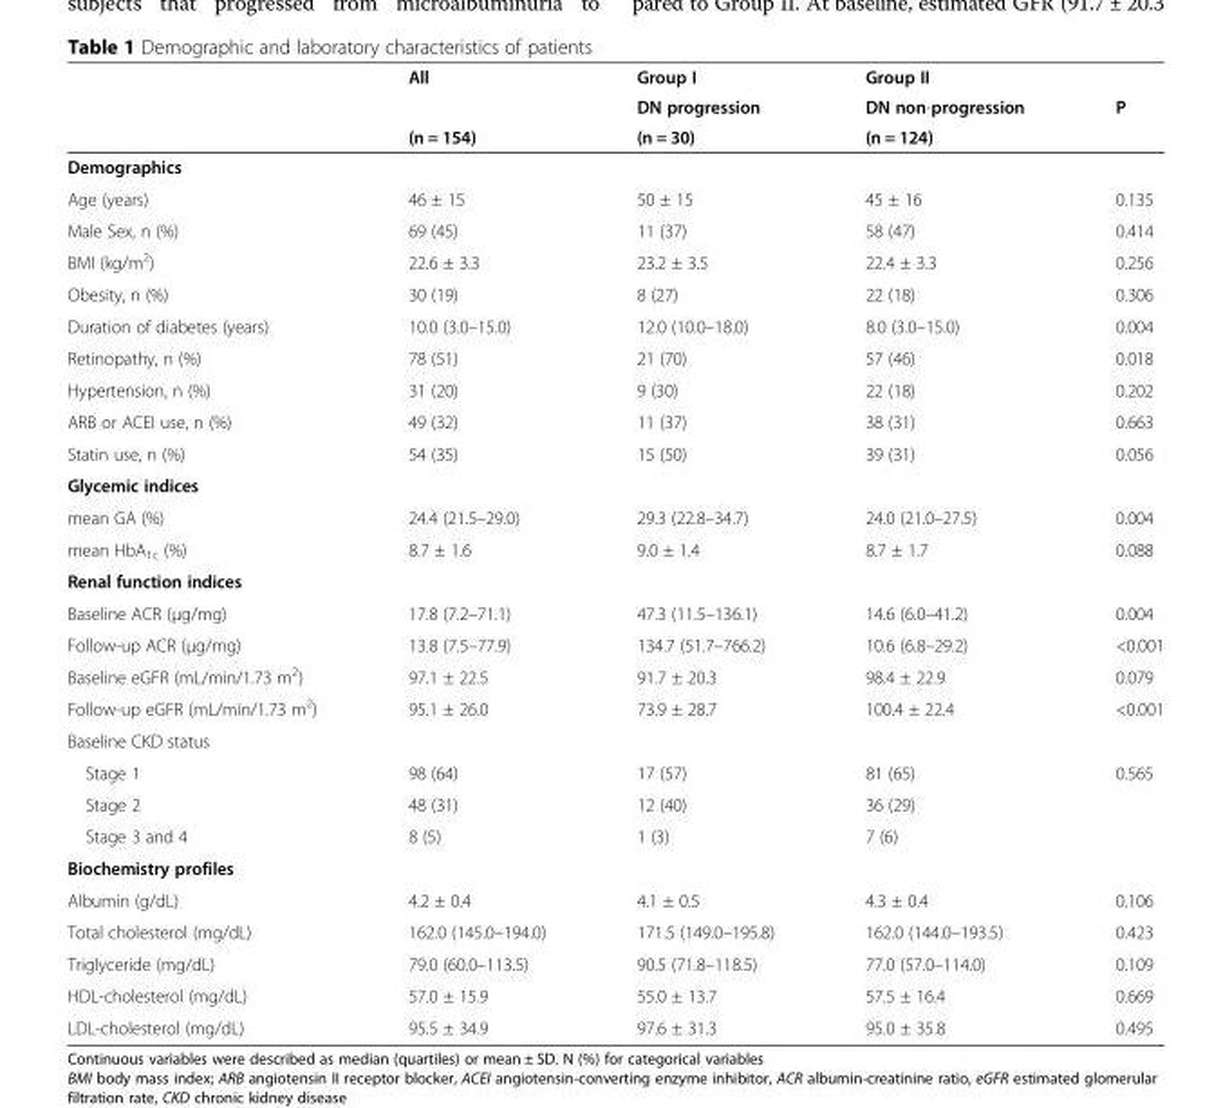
<table><thead><tr><td rowspan="3"></td><td rowspan="3">All (n = 154)</td><td rowspan="3">Group I DN progression (n = 30)</td><td colspan="2">Group II</td></tr><tr><td rowspan="2">DN non-progression (n = 124)</td><td rowspan="2">P</td></tr><tr></tr></thead><tbody><tr><td colspan="5">Demographics</td></tr><tr><td>Age (years)</td><td>46 ± 15</td><td>50 ± 15</td><td>45 ± 16</td><td>0.135</td></tr><tr><td>Male Sex, n (%)</td><td>69 (45)</td><td>11 (37)</td><td>58 (47)</td><td>0.414</td></tr><tr><td>BMI (kg/m<sup>2</sup>)</td><td>22.6 ± 3.3</td><td>23.2 ± 3.5</td><td>22.4 ± 3.3</td><td>0.256</td></tr><tr><td>Obesity, n (%)</td><td>30 (19)</td><td>8 (27)</td><td>22 (18)</td><td>0.306</td></tr><tr><td>Duration of diabetes (years)</td><td>10.0 (3.0–15.0)</td><td>12.0 (10.0–18.0)</td><td>8.0 (3.0–15.0)</td><td>0.004</td></tr><tr><td>Retinopathy, n (%)</td><td>78 (51)</td><td>21 (70)</td><td>57 (46)</td><td>0.018</td></tr><tr><td>Hypertension, n (%)</td><td>31 (20)</td><td>9 (30)</td><td>22 (18)</td><td>0.202</td></tr><tr><td>ARB or ACEI use, n (%)</td><td>49 (32)</td><td>11 (37)</td><td>38 (31)</td><td>0.663</td></tr><tr><td>Statin use, n (%)</td><td>54 (35)</td><td>15 (50)</td><td>39 (31)</td><td>0.056</td></tr><tr><td colspan="5">Glycemic indices</td></tr><tr><td>mean GA (%)</td><td>24.4 (21.5–29.0)</td><td>29.3 (22.8–34.7)</td><td>24.0 (21.0–27.5)</td><td>0.004</td></tr><tr><td>mean HbA<sub>1c</sub> (%)</td><td>8.7 ± 1.6</td><td>9.0 ± 1.4</td><td>8.7 ± 1.7</td><td>0.088</td></tr><tr><td colspan="5">Renal function indices</td></tr><tr><td>Baseline ACR (μg/mg)</td><td>17.8 (7.2–71.1)</td><td>47.3 (11.5–136.1)</td><td>14.6 (6.0–41.2)</td><td>0.004</td></tr><tr><td>Follow-up ACR (μg/mg)</td><td>13.8 (7.5–77.9)</td><td>134.7 (51.7–766.2)</td><td>10.6 (6.8–29.2)</td><td>&lt;0.001</td></tr><tr><td>Baseline eGFR (mL/min/1.73 m<sup>2</sup>)</td><td>97.1 ± 22.5</td><td>91.7 ± 20.3</td><td>98.4 ± 22.9</td><td>0.079</td></tr><tr><td>Follow-up eGFR (mL/min/1.73 m<sup>2</sup>)</td><td>95.1 ± 26.0</td><td>73.9 ± 28.7</td><td>100.4 ± 22.4</td><td>&lt;0.001</td></tr><tr><td colspan="5">Baseline CKD status</td></tr><tr><td>Stage 1</td><td>98 (64)</td><td>17 (57)</td><td>81 (65)</td><td rowspan="3">0.565</td></tr><tr><td>Stage 2</td><td>48 (31)</td><td>12 (40)</td><td>36 (29)</td></tr><tr><td>Stage 3 and 4</td><td>8 (5)</td><td>1 (3)</td><td>7 (6)</td></tr><tr><td colspan="5">Biochemistry profiles</td></tr><tr><td>Albumin (g/dL)</td><td>4.2 ± 0.4</td><td>4.1 ± 0.5</td><td>4.3 ± 0.4</td><td>0.106</td></tr><tr><td>Total cholesterol (mg/dL)</td><td>162.0 (145.0–194.0)</td><td>171.5 (149.0–195.8)</td><td>162.0 (144.0–193.5)</td><td>0.423</td></tr><tr><td>Triglyceride (mg/dL)</td><td>79.0 (60.0–113.5)</td><td>90.5 (71.8–118.5)</td><td>77.0 (57.0–114.0)</td><td>0.109</td></tr><tr><td>HDL-cholesterol (mg/dL)</td><td>57.0 ± 15.9</td><td>55.0 ± 13.7</td><td>57.5 ± 16.4</td><td>0.669</td></tr><tr><td>LDL-cholesterol (mg/dL)</td><td>95.5 ± 34.9</td><td>97.6 ± 31.3</td><td>95.0 ± 35.8</td><td>0.495</td></tr></tbody></table>